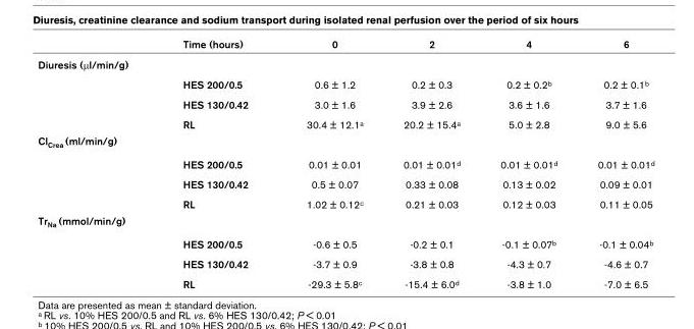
<table><thead><tr><td></td><td>Time (hours)</td><td>0</td><td>2</td><td>4</td><td>6</td></tr></thead><tbody><tr><td colspan="6">Diuresis (μl/min/g)</td></tr><tr><td></td><td>HES 200/0.5</td><td>0.6 ± 1.2</td><td>0.2 ± 0.3</td><td>0.2 ± 0.2<sup>b</sup></td><td>0.2 ± 0.1<sup>b</sup></td></tr><tr><td></td><td>HES 130/0.42</td><td>3.0 ± 1.6</td><td>3.9 ± 2.6</td><td>3.6 ± 1.6</td><td>3.7 ± 1.6</td></tr><tr><td></td><td>RL</td><td>30.4 ± 12.1<sup>a</sup></td><td>20.2 ± 15.4<sup>a</sup></td><td>5.0 ± 2.8</td><td>9.0 ± 5.6</td></tr><tr><td colspan="6">Cl<sub>Crea</sub> (ml/min/g)</td></tr><tr><td></td><td>HES 200/0.5</td><td>0.01 ± 0.01</td><td>0.01 ± 0.01<sup>d</sup></td><td>0.01 ± 0.01<sup>d</sup></td><td>0.01 ± 0.01<sup>d</sup></td></tr><tr><td></td><td>HES 130/0.42</td><td>0.5 ± 0.07</td><td>0.33 ± 0.08</td><td>0.13 ± 0.02</td><td>0.09 ± 0.01</td></tr><tr><td></td><td>RL</td><td>1.02 ± 0.12<sup>c</sup></td><td>0.21 ± 0.03</td><td>0.12 ± 0.03</td><td>0.11 ± 0.05</td></tr><tr><td colspan="6">Tr<sub>Na</sub> (mmol/min/g)</td></tr><tr><td></td><td>HES 200/0.5</td><td>-0.6 ± 0.5</td><td>-0.2 ± 0.1</td><td>-0.1 ± 0.07<sup>b</sup></td><td>-0.1 ± 0.04<sup>b</sup></td></tr><tr><td></td><td>HES 130/0.42</td><td>-3.7 ± 0.9</td><td>-3.8 ± 0.8</td><td>-4.3 ± 0.7</td><td>-4.6 ± 0.7</td></tr><tr><td></td><td>RL</td><td>-29.3 ± 5.8<sup>c</sup></td><td>-15.4 ± 6.0<sup>d</sup></td><td>-3.8 ± 1.0</td><td>-7.0 ± 6.5</td></tr></tbody></table>